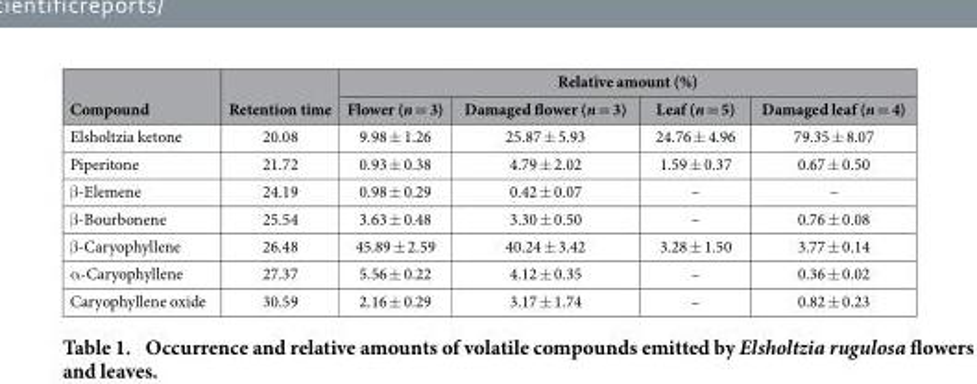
<table><thead><tr><td rowspan="2">Compound</td><td rowspan="2">Retention time</td><td colspan="4">Relative amount (%)</td></tr><tr><td>Flower (n = 3)</td><td>Damaged flower (n = 3)</td><td>Leaf (n = 5)</td><td>Damaged leaf (n = 4)</td></tr></thead><tbody><tr><td>Elsholtzia ketone</td><td>20.08</td><td>9.98 ± 1.26</td><td>25.87 ± 5.93</td><td>24.76 ± 4.96</td><td>79.35 ± 8.07</td></tr><tr><td>Piperitone</td><td>21.72</td><td>0.93 ± 0.38</td><td>4.79 ± 2.02</td><td>1.59 ± 0.37</td><td>0.67 ± 0.50</td></tr><tr><td>β -Elemene</td><td>24.19</td><td>0.98 ± 0.29</td><td>0.42 ± 0.07</td><td>–</td><td>–</td></tr><tr><td>β -Bourbonene</td><td>25.54</td><td>3.63 ± 0.48</td><td>3.30 ± 0.50</td><td>–</td><td>0.76 ± 0.08</td></tr><tr><td>β -Caryophyllene</td><td>26.48</td><td>45.89 ± 2.59</td><td>40.24 ± 3.42</td><td>3.28 ± 1.50</td><td>3.77 ± 0.14</td></tr><tr><td>α -Caryophyllene</td><td>27.37</td><td>5.56 ± 0.22</td><td>4.12 ± 0.35</td><td>–</td><td>0.36 ± 0.02</td></tr><tr><td>Caryophyllene oxide</td><td>30.59</td><td>2.16 ± 0.29</td><td>3.17 ± 1.74</td><td>–</td><td>0.82 ± 0.23</td></tr></tbody></table>